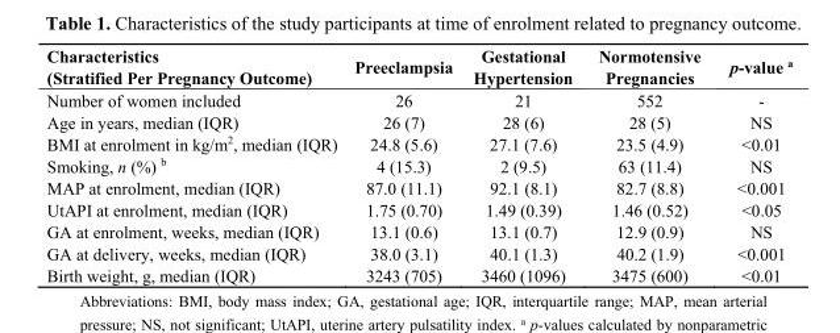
<table><thead><tr><td>Characteristics (Stratified Per Pregnancy Outcome)</td><td>Preeclampsia</td><td>Gestational Hypertension</td><td>Normotensive Pregnancies</td><td>p-value <sup>a</sup></td></tr></thead><tbody><tr><td>Number of women included</td><td>26</td><td>21</td><td>552</td><td>-</td></tr><tr><td>Age in years, median (IQR)</td><td>26 (7)</td><td>28 (6)</td><td>28 (5)</td><td>NS</td></tr><tr><td>BMI at enrolment in kg/m<sup>2</sup>, median (IQR)</td><td>24.8 (5.6)</td><td>27.1 (7.6)</td><td>23.5 (4.9)</td><td>&lt;0.01</td></tr><tr><td>Smoking, n (%) <sup>b</sup></td><td>4 (15.3)</td><td>2 (9.5)</td><td>63 (11.4)</td><td>NS</td></tr><tr><td>MAP at enrolment, median (IQR)</td><td>87.0 (11.1)</td><td>92.1 (8.1)</td><td>82.7 (8.8)</td><td>&lt;0.001</td></tr><tr><td>UtAPI at enrolment, median (IQR)</td><td>1.75 (0.70)</td><td>1.49 (0.39)</td><td>1.46 (0.52)</td><td>&lt;0.05</td></tr><tr><td>GA at enrolment, weeks, median (IQR)</td><td>13.1 (0.6)</td><td>13.1 (0.7)</td><td>12.9 (0.9)</td><td>NS</td></tr><tr><td>GA at delivery, weeks, median (IQR)</td><td>38.0 (3.1)</td><td>40.1 (1.3)</td><td>40.2 (1.9)</td><td>&lt;0.001</td></tr><tr><td>Birth weight, g, median (IQR)</td><td>3243 (705)</td><td>3460 (1096)</td><td>3475 (600)</td><td>&lt;0.01</td></tr></tbody></table>